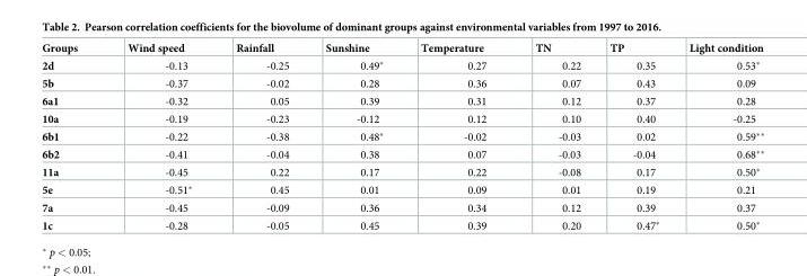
<table><thead><tr><td>Groups</td><td>Wind speed</td><td>Rainfall</td><td>Sunshine</td><td>Temperature</td><td>TN</td><td>TP</td><td>Light condition</td></tr></thead><tbody><tr><td>2d</td><td>-0.13</td><td>-0.25</td><td>0.49*</td><td>0.27</td><td>0.22</td><td>0.35</td><td>0.53*</td></tr><tr><td>5b</td><td>-0.37</td><td>-0.02</td><td>0.28</td><td>0.36</td><td>0.07</td><td>0.43</td><td>0.09</td></tr><tr><td>6a1</td><td>-0.32</td><td>0.05</td><td>0.39</td><td>0.31</td><td>0.12</td><td>0.37</td><td>0.28</td></tr><tr><td>10a</td><td>-0.19</td><td>-0.23</td><td>-0.12</td><td>0.12</td><td>0.10</td><td>0.40</td><td>-0.25</td></tr><tr><td>6b1</td><td>-0.22</td><td>-0.38</td><td>0.48*</td><td>-0.02</td><td>-0.03</td><td>0.02</td><td>0.59**</td></tr><tr><td>6b2</td><td>-0.41</td><td>-0.04</td><td>0.38</td><td>0.07</td><td>-0.03</td><td>-0.04</td><td>0.68**</td></tr><tr><td>11a</td><td>-0.45</td><td>0.22</td><td>0.17</td><td>0.22</td><td>-0.08</td><td>0.17</td><td>0.50*</td></tr><tr><td>5e</td><td>-0.51*</td><td>0.45</td><td>0.01</td><td>0.09</td><td>0.01</td><td>0.19</td><td>0.21</td></tr><tr><td>7a</td><td>-0.45</td><td>-0.09</td><td>0.36</td><td>0.34</td><td>0.12</td><td>0.39</td><td>0.37</td></tr><tr><td>1c</td><td>-0.28</td><td>-0.05</td><td>0.45</td><td>0.39</td><td>0.20</td><td>0.47*</td><td>0.50*</td></tr></tbody></table>